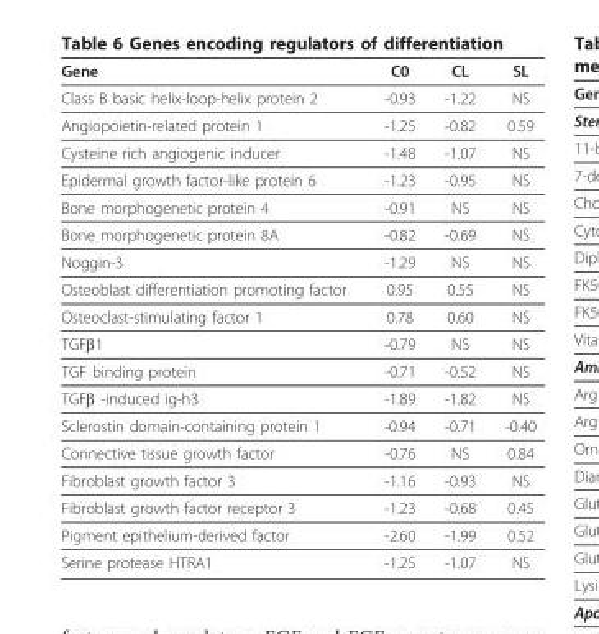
<table><thead><tr><td>Gene</td><td>C0</td><td>CL</td><td>SL</td></tr></thead><tbody><tr><td>Class B basic helix-loop-helix protein 2</td><td>-0.93</td><td>-1.22</td><td>NS</td></tr><tr><td>Angiopoietin-related protein 1</td><td>-1.25</td><td>-0.82</td><td>0.59</td></tr><tr><td>Cysteine rich angiogenic inducer</td><td>-1.48</td><td>-1.07</td><td>NS</td></tr><tr><td>Epidermal growth factor-like protein 6</td><td>-1.23</td><td>-0.95</td><td>NS</td></tr><tr><td>Bone morphogenetic protein 4</td><td>-0.91</td><td>NS</td><td>NS</td></tr><tr><td>Bone morphogenetic protein 8A</td><td>-0.82</td><td>-0.69</td><td>NS</td></tr><tr><td>Noggin-3</td><td>-1.29</td><td>NS</td><td>NS</td></tr><tr><td>Osteoblast differentiation promoting factor</td><td>0.95</td><td>0.55</td><td>NS</td></tr><tr><td>Osteoclast-stimulating factor 1</td><td>0.78</td><td>0.60</td><td>NS</td></tr><tr><td>TGFβ1</td><td>-0.79</td><td>NS</td><td>NS</td></tr><tr><td>TGF binding protein</td><td>-0.71</td><td>-0.52</td><td>NS</td></tr><tr><td>TGFβ -induced ig-h3</td><td>-1.89</td><td>-1.82</td><td>NS</td></tr><tr><td>Sclerostin domain-containing protein 1</td><td>-0.94</td><td>-0.71</td><td>-0.40</td></tr><tr><td>Connective tissue growth factor</td><td>-0.76</td><td>NS</td><td>0.84</td></tr><tr><td>Fibroblast growth factor 3</td><td>-1.16</td><td>-0.93</td><td>NS</td></tr><tr><td>Fibroblast growth factor receptor 3</td><td>-1.23</td><td>-0.68</td><td>0.45</td></tr><tr><td>Pigment epithelium-derived factor</td><td>-2.60</td><td>-1.99</td><td>0.52</td></tr><tr><td>Serine protease HTRA1</td><td>-1.25</td><td>-1.07</td><td>NS</td></tr></tbody></table>